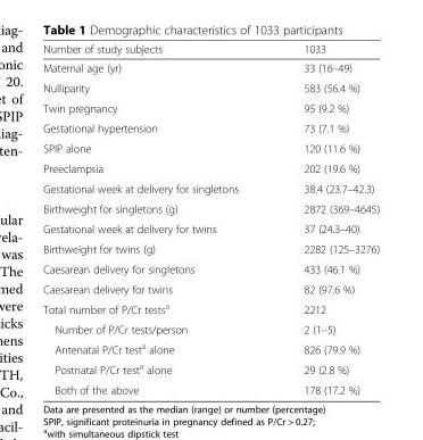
<table><thead><tr><td>Number of study subjects</td><td>1033</td></tr></thead><tbody><tr><td>Maternal age (yr)</td><td>33 (16–49)</td></tr><tr><td>Nulliparity</td><td>583 (56.4 %)</td></tr><tr><td>Twin pregnancy</td><td>95 (9.2 %)</td></tr><tr><td>Gestational hypertension</td><td>73 (7.1 %)</td></tr><tr><td>SPIP alone</td><td>120 (11.6 %)</td></tr><tr><td>Preeclampsia</td><td>202 (19.6 %)</td></tr><tr><td>Gestational week at delivery for singletons</td><td>38.4 (23.7–42.3)</td></tr><tr><td>Birthweight for singletons (g)</td><td>2872 (369–4645)</td></tr><tr><td>Gestational week at delivery for twins</td><td>37 (24.3–40)</td></tr><tr><td>Birthweight for twins (g)</td><td>2282 (125–3276)</td></tr><tr><td>Caesarean delivery for singletons</td><td>433 (46.1 %)</td></tr><tr><td>Caesarean delivery for twins</td><td>82 (97.6 %)</td></tr><tr><td>Total number of P/Cr tests<sup>a</sup></td><td>2212</td></tr><tr><td>Number of P/Cr tests/person</td><td>2 (1–5)</td></tr><tr><td>Antenatal P/Cr test<sup>a</sup> alone</td><td>826 (79.9 %)</td></tr><tr><td>Postnatal P/Cr test<sup>a</sup> alone</td><td>29 (2.8 %)</td></tr><tr><td>Both of the above</td><td>178 (17.2 %)</td></tr></tbody></table>